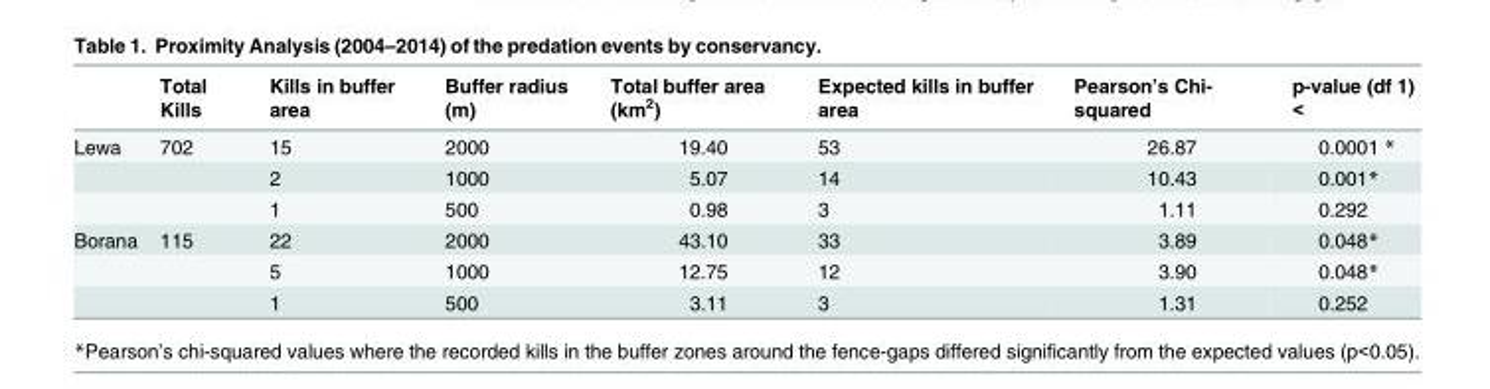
<table><thead><tr><td></td><td>Total Kills</td><td>Kills in buffer area</td><td>Buffer radius (m)</td><td>Total buffer area (km<sup>2</sup>)</td><td>Expected kills in buffer area</td><td>Pearson’s Chi- squared</td><td>p-value (df 1) &lt;</td></tr></thead><tbody><tr><td rowspan="3">Lewa</td><td>702</td><td>15</td><td>2000</td><td>19.40</td><td>53</td><td>26.87</td><td>0.0001 *</td></tr><tr><td></td><td>2</td><td>1000</td><td>5.07</td><td>14</td><td>10.43</td><td>0.001*</td></tr><tr><td></td><td>1</td><td>500</td><td>0.98</td><td>3</td><td>1.11</td><td>0.292</td></tr><tr><td rowspan="3">Borana</td><td>115</td><td>22</td><td>2000</td><td>43.10</td><td>33</td><td>3.89</td><td>0.048*</td></tr><tr><td></td><td>5</td><td>1000</td><td>12.75</td><td>12</td><td>3.90</td><td>0.048*</td></tr><tr><td></td><td>1</td><td>500</td><td>3.11</td><td>3</td><td>1.31</td><td>0.252</td></tr></tbody></table>